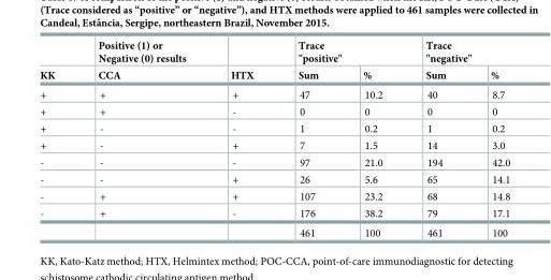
<table><thead><tr><td rowspan="2">KK</td><td rowspan="2">Positive (1) or Negative (0) results CCA</td><td rowspan="2">HTX</td><td colspan="2">Trace &quot;positive&quot;</td><td colspan="2">Trace &quot;negative&quot;</td></tr><tr><td>Sum</td><td>%</td><td>Sum</td><td>%</td></tr></thead><tbody><tr><td>+</td><td>+</td><td>+</td><td>47</td><td>10.2</td><td>40</td><td>8.7</td></tr><tr><td>+</td><td>+</td><td>-</td><td>0</td><td>0</td><td>0</td><td>0</td></tr><tr><td>+</td><td>-</td><td>-</td><td>1</td><td>0.2</td><td>1</td><td>0.2</td></tr><tr><td>+</td><td>-</td><td>+</td><td>7</td><td>1.5</td><td>14</td><td>3.0</td></tr><tr><td>-</td><td>-</td><td>-</td><td>97</td><td>21.0</td><td>194</td><td>42.0</td></tr><tr><td>-</td><td>-</td><td>+</td><td>26</td><td>5.6</td><td>65</td><td>14.1</td></tr><tr><td>-</td><td>+</td><td>+</td><td>107</td><td>23.2</td><td>68</td><td>14.8</td></tr><tr><td rowspan="2">-</td><td>+</td><td>-</td><td>176</td><td>38.2</td><td>79</td><td>17.1</td></tr><tr><td></td><td></td><td>461</td><td>100</td><td>461</td><td>100</td></tr></tbody></table>